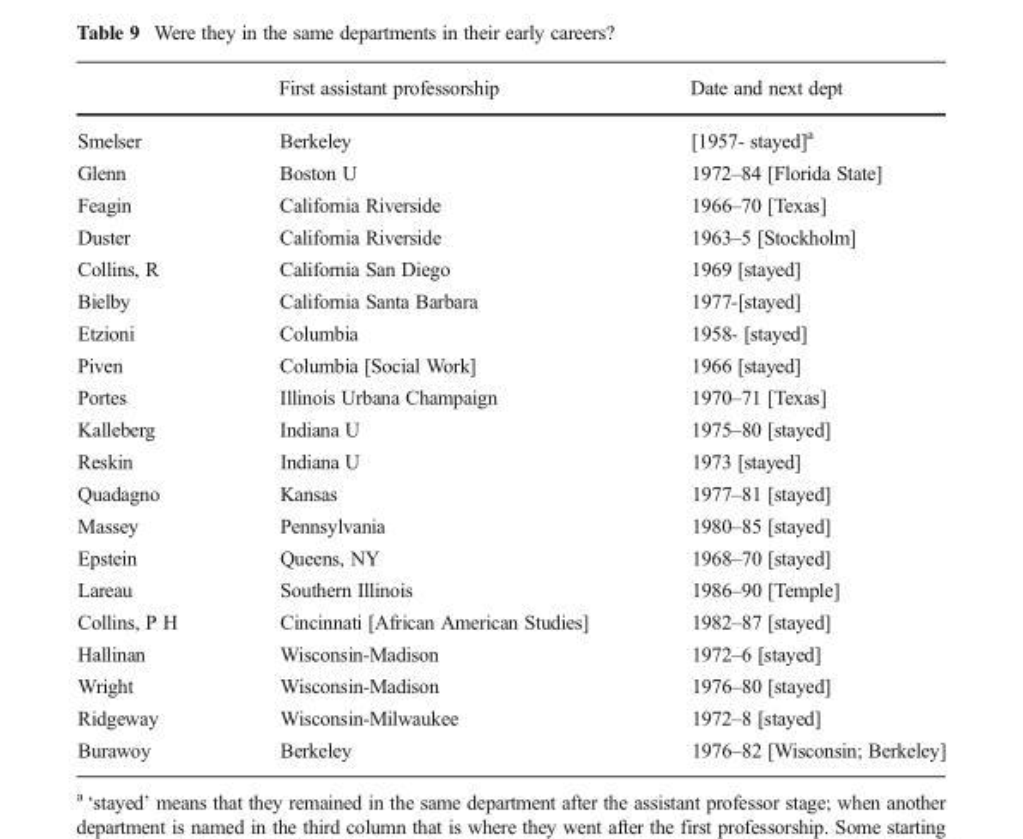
<table><thead><tr><td></td><td>First assistant professorship</td><td>Date and next dept</td></tr></thead><tbody><tr><td>Smelser</td><td>Berkeley</td><td>[1957- stayed]<sup>a</sup></td></tr><tr><td>Glenn</td><td>Boston U</td><td>1972–84 [Florida State]</td></tr><tr><td>Feagin</td><td>California Riverside</td><td>1966–70 [Texas]</td></tr><tr><td>Duster</td><td>California Riverside</td><td>1963–5 [Stockholm]</td></tr><tr><td>Collins, R</td><td>California San Diego</td><td>1969 [stayed]</td></tr><tr><td>Bielby</td><td>California Santa Barbara</td><td>1977-[stayed]</td></tr><tr><td>Etzioni</td><td>Columbia</td><td>1958- [stayed]</td></tr><tr><td>Piven</td><td>Columbia [Social Work]</td><td>1966 [stayed]</td></tr><tr><td>Portes</td><td>Illinois Urbana Champaign</td><td>1970–71 [Texas]</td></tr><tr><td>Kalleberg</td><td>Indiana U</td><td>1975–80 [stayed]</td></tr><tr><td>Reskin</td><td>Indiana U</td><td>1973 [stayed]</td></tr><tr><td>Quadagno</td><td>Kansas</td><td>1977–81 [stayed]</td></tr><tr><td>Massey</td><td>Pennsylvania</td><td>1980–85 [stayed]</td></tr><tr><td>Epstein</td><td>Queens, NY</td><td>1968–70 [stayed]</td></tr><tr><td>Lareau</td><td>Southern Illinois</td><td>1986–90 [Temple]</td></tr><tr><td>Collins, P H</td><td>Cincinnati [African American Studies]</td><td>1982–87 [stayed]</td></tr><tr><td>Hallinan</td><td>Wisconsin-Madison</td><td>1972–6 [stayed]</td></tr><tr><td>Wright</td><td>Wisconsin-Madison</td><td>1976–80 [stayed]</td></tr><tr><td>Ridgeway</td><td>Wisconsin-Milwaukee</td><td>1972–8 [stayed]</td></tr><tr><td>Burawoy</td><td>Berkeley</td><td>1976–82 [Wisconsin; Berkeley]</td></tr></tbody></table>